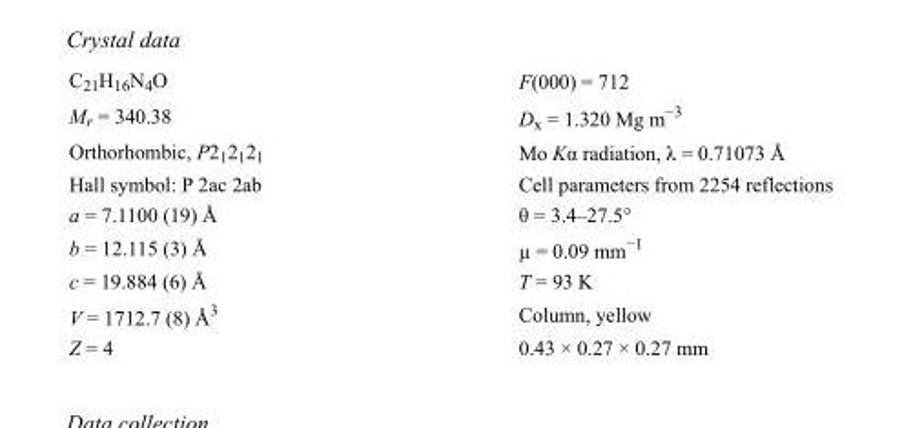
<table><tbody><tr><td>C<sub>21</sub>H<sub>16</sub>N<sub>4</sub>O</td><td>F(000) = 712</td></tr><tr><td>M<sub>r</sub> = 340.38</td><td>D<sub>x</sub> = 1.320 Mg m<sup>−3</sup></td></tr><tr><td>Orthorhombic, P2<sub>1</sub>2<sub>1</sub>2<sub>1</sub></td><td>Mo Kα radiation, λ = 0.71073 Å</td></tr><tr><td>Hall symbol: P 2ac 2ab</td><td>Cell parameters from 2254 reflections</td></tr><tr><td>a = 7.1100 (19) Å</td><td>θ = 3.4–27.5°</td></tr><tr><td>b = 12.115 (3) Å</td><td>µ = 0.09 mm<sup>−1</sup></td></tr><tr><td>c = 19.884 (6) Å</td><td>T = 93 K</td></tr><tr><td>V = 1712.7 (8) Å<sup>3</sup></td><td>Column, yellow</td></tr><tr><td>Z = 4</td><td>0.43 × 0.27 × 0.27 mm</td></tr></tbody></table>